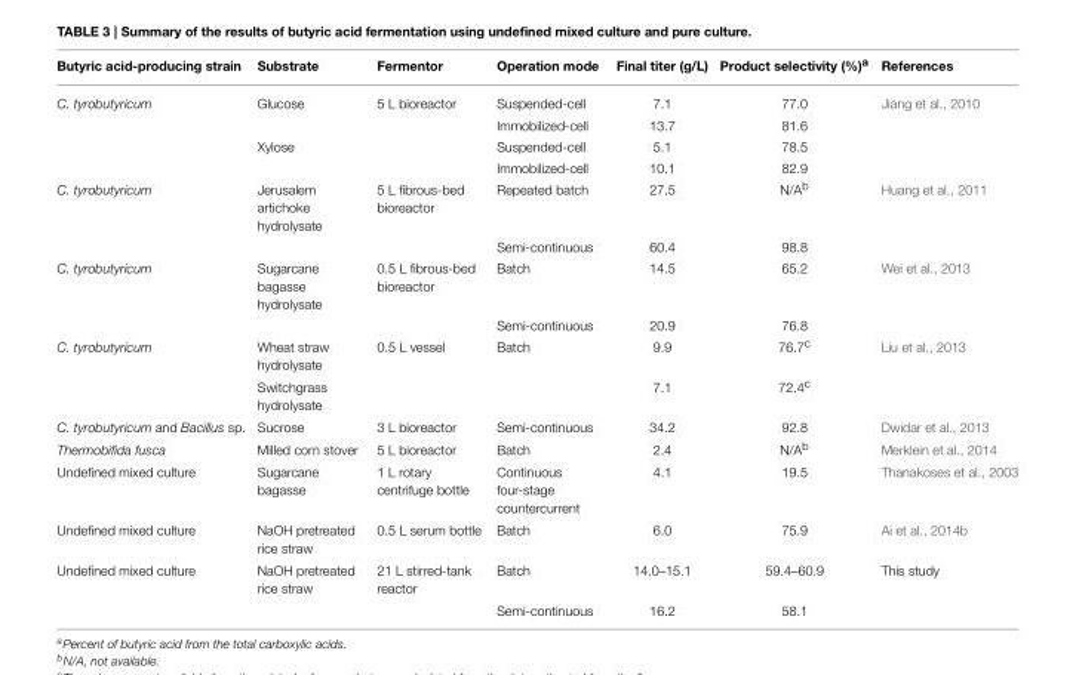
<table><thead><tr><td>Butyric acid-producing strain</td><td>Substrate</td><td>Fermentor</td><td>Operation mode</td><td>Final titer (g/L)</td><td>Product selectivity (%)<sup>a</sup></td><td>References</td></tr></thead><tbody><tr><td rowspan="4">C. tyrobutyricum</td><td>Glucose</td><td>5 L bioreactor</td><td>Suspended-cell</td><td>7.1</td><td>77.0</td><td>Jiang et al., 2010</td></tr><tr><td></td><td></td><td>Immobilized-cell</td><td>13.7</td><td>81.6</td><td></td></tr><tr><td>Xylose</td><td></td><td>Suspended-cell</td><td>5.1</td><td>78.5</td><td></td></tr><tr><td></td><td></td><td>Immobilized-cell</td><td>10.1</td><td>82.9</td><td></td></tr><tr><td rowspan="2">C. tyrobutyricum</td><td>Jerusalem artichoke hydrolysate</td><td>5 L fibrous-bed bioreactor</td><td>Repeated batch</td><td>27.5</td><td>N/A<sup>b</sup></td><td>Huang et al., 2011</td></tr><tr><td></td><td></td><td>Semi-continuous</td><td>60.4</td><td>98.8</td><td></td></tr><tr><td rowspan="2">C. tyrobutyricum</td><td>Sugarcane bagasse hydrolysate</td><td>0.5 L fibrous-bed bioreactor</td><td>Batch</td><td>14.5</td><td>65.2</td><td>Wei et al., 2013</td></tr><tr><td></td><td></td><td>Semi-continuous</td><td>20.9</td><td>76.8</td><td></td></tr><tr><td rowspan="2">C. tyrobutyricum</td><td>Wheat straw hydrolysate</td><td>0.5 L vessel</td><td>Batch</td><td>9.9</td><td>76.7<sup>c</sup></td><td>Liu et al., 2013</td></tr><tr><td>Switchgrass hydrolysate</td><td></td><td></td><td>7.1</td><td>72.4<sup>c</sup></td><td></td></tr><tr><td>C. tyrobutyricum and Bacillus sp.</td><td>Sucrose</td><td>3 L bioreactor</td><td>Semi-continuous</td><td>34.2</td><td>92.8</td><td>Dwidar et al., 2013</td></tr><tr><td>Thermobifida fusca</td><td>Milled corn stover</td><td>5 L bioreactor</td><td>Batch</td><td>2.4</td><td>N/A<sup>b</sup></td><td>Merklein et al., 2014</td></tr><tr><td>Undefined mixed culture</td><td>Sugarcane bagasse</td><td>1 L rotary centrifuge bottle</td><td>Continuous four-stage countercurrent</td><td>4.1</td><td>19.5</td><td>Thanakoses et al., 2003</td></tr><tr><td>Undefined mixed culture</td><td>NaOH pretreated rice straw</td><td>0.5 L serum bottle</td><td>Batch</td><td>6.0</td><td>75.9</td><td>Ai et al., 2014b</td></tr><tr><td rowspan="2">Undefined mixed culture</td><td>NaOH pretreated rice straw</td><td>21 L stirred-tank reactor</td><td>Batch</td><td>14.0–15.1</td><td>59.4–60.9</td><td>This study</td></tr><tr><td></td><td></td><td>Semi-continuous</td><td>16.2</td><td>58.1</td><td></td></tr></tbody></table>